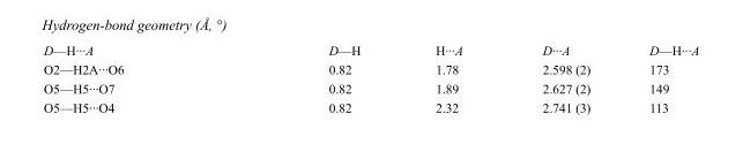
<table><tbody><tr><td>D—H···A</td><td>D—H</td><td>H···A</td><td>D···A</td><td>D—H···A</td></tr><tr><td>O2—H2A···O6</td><td>0.82</td><td>1.78</td><td>2.598 (2)</td><td>173</td></tr><tr><td>O5—H5···O7</td><td>0.82</td><td>1.89</td><td>2.627 (2)</td><td>149</td></tr><tr><td>O5—H5···O4</td><td>0.82</td><td>2.32</td><td>2.741 (3)</td><td>113</td></tr></tbody></table>